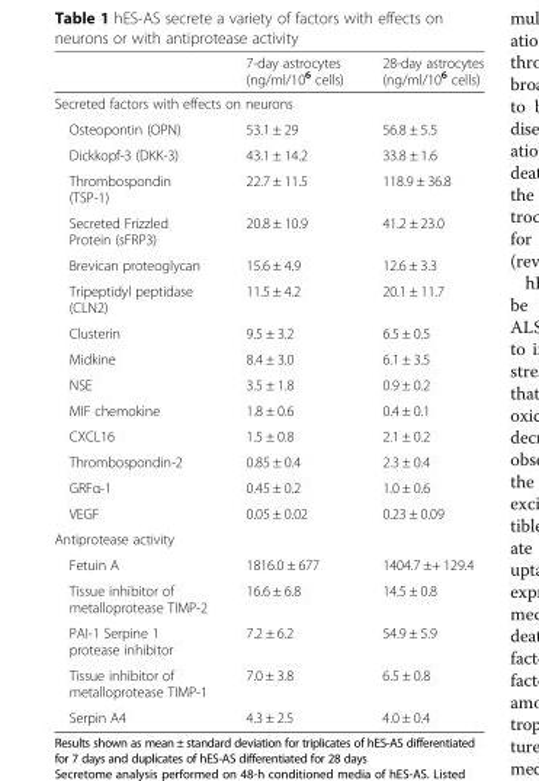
<table><thead><tr><td></td><td>7-day astrocytes (ng/ml/10<sup>6</sup> cells)</td><td>28-day astrocytes (ng/ml/10<sup>6</sup> cells)</td></tr></thead><tbody><tr><td colspan="3">Secreted factors with effects on neurons</td></tr><tr><td>Osteopontin (OPN)</td><td>53.1 ± 29</td><td>56.8 ± 5.5</td></tr><tr><td>Dickkopf-3 (DKK-3)</td><td>43.1 ± 14.2</td><td>33.8 ± 1.6</td></tr><tr><td>Thrombospondin (TSP-1)</td><td>22.7 ± 11.5</td><td>118.9 ± 36.8</td></tr><tr><td>Secreted Frizzled Protein (sFRP3)</td><td>20.8 ± 10.9</td><td>41.2 ± 23.0</td></tr><tr><td>Brevican proteoglycan</td><td>15.6 ± 4.9</td><td>12.6 ± 3.3</td></tr><tr><td>Tripeptidyl peptidase (CLN2)</td><td>11.5 ± 4.2</td><td>20.1 ± 11.7</td></tr><tr><td>Clusterin</td><td>9.5 ± 3.2</td><td>6.5 ± 0.5</td></tr><tr><td>Midkine</td><td>8.4 ± 3.0</td><td>6.1 ± 3.5</td></tr><tr><td>NSE</td><td>3.5 ± 1.8</td><td>0.9 ± 0.2</td></tr><tr><td>MIF chemokine</td><td>1.8 ± 0.6</td><td>0.4 ± 0.1</td></tr><tr><td>CXCL16</td><td>1.5 ± 0.8</td><td>2.1 ± 0.2</td></tr><tr><td>Thrombospondin-2</td><td>0.85 ± 0.4</td><td>2.3 ± 0.4</td></tr><tr><td>GRFα-1</td><td>0.45 ± 0.2</td><td>1.0 ± 0.6</td></tr><tr><td>VEGF</td><td>0.05 ± 0.02</td><td>0.23 ± 0.09</td></tr><tr><td colspan="3">Antiprotease activity</td></tr><tr><td>Fetuin A</td><td>1816.0 ± 677</td><td>1404.7 ±+ 129.4</td></tr><tr><td>Tissue inhibitor of metalloprotease TIMP-2</td><td>16.6 ± 6.8</td><td>14.5 ± 0.8</td></tr><tr><td>PAI-1 Serpine 1 protease inhibitor</td><td>7.2 ± 6.2</td><td>54.9 ± 5.9</td></tr><tr><td>Tissue inhibitor of metalloprotease TIMP-1</td><td>7.0 ± 3.8</td><td>6.5 ± 0.8</td></tr><tr><td>Serpin A4</td><td>4.3 ± 2.5</td><td>4.0 ± 0.4</td></tr></tbody></table>